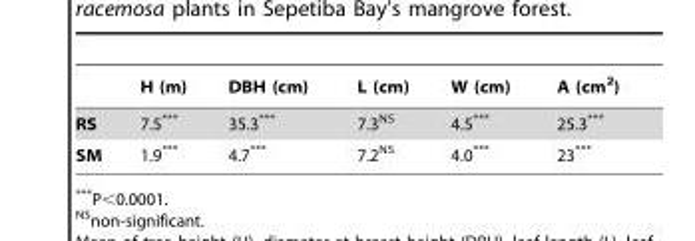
<table><thead><tr><td></td><td>H (m)</td><td>DBH (cm)</td><td>L (cm)</td><td>W (cm)</td><td>A (cm<sup>2</sup>)</td></tr></thead><tbody><tr><td>RS</td><td>7.5***</td><td>35.3***</td><td>7.3<sup>NS</sup></td><td>4.5***</td><td>25.3***</td></tr><tr><td>SM</td><td>1.9***</td><td>4.7***</td><td>7.2<sup>NS</sup></td><td>4.0***</td><td>23***</td></tr></tbody></table>